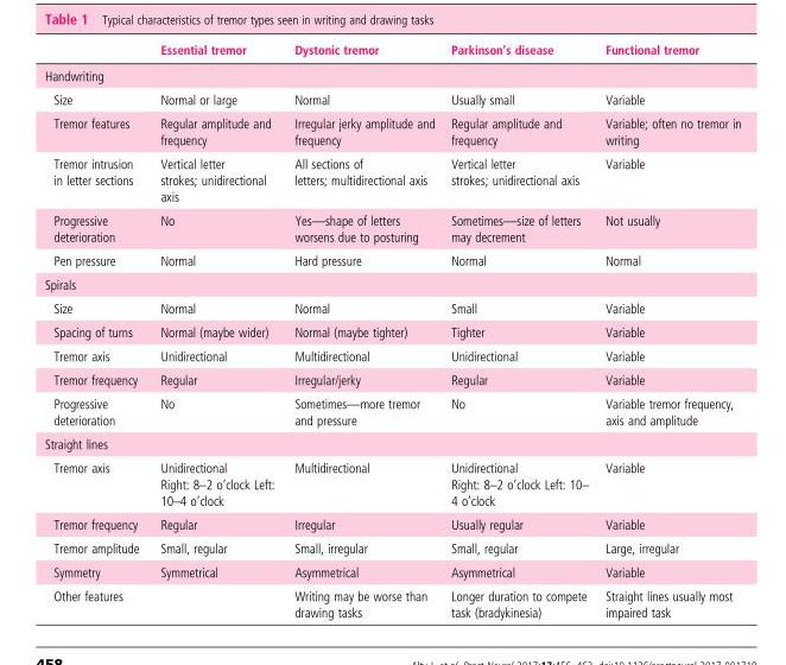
<table><thead><tr><td></td><td>Essential tremor</td><td>Dystonic tremor</td><td>Parkinson’s disease</td><td>Functional tremor</td></tr></thead><tbody><tr><td colspan="5">Handwriting</td></tr><tr><td>Size</td><td>Normal or large</td><td>Normal</td><td>Usually small</td><td>Variable</td></tr><tr><td>Tremor features</td><td>Regular amplitude and frequency</td><td>Irregular jerky amplitude and frequency</td><td>Regular amplitude and frequency</td><td>Variable; often no tremor in writing</td></tr><tr><td>Tremor intrusion in letter sections</td><td>Vertical letter strokes; unidirectional axis</td><td>All sections of letters; multidirectional axis</td><td>Vertical letter strokes; unidirectional axis</td><td>Variable</td></tr><tr><td>Progressive deterioration</td><td>No</td><td>Yes—shape of letters worsens due to posturing</td><td>Sometimes—size of letters may decrement</td><td>Not usually</td></tr><tr><td>Pen pressure</td><td>Normal</td><td>Hard pressure</td><td>Normal</td><td>Normal</td></tr><tr><td colspan="5">Spirals</td></tr><tr><td>Size</td><td>Normal</td><td>Normal</td><td>Small</td><td>Variable</td></tr><tr><td>Spacing of turns</td><td>Normal (maybe wider)</td><td>Normal (maybe tighter)</td><td>Tighter</td><td>Variable</td></tr><tr><td>Tremor axis</td><td>Unidirectional</td><td>Multidirectional</td><td>Unidirectional</td><td>Variable</td></tr><tr><td>Tremor frequency</td><td>Regular</td><td>Irregular/jerky</td><td>Regular</td><td>Variable</td></tr><tr><td>Progressive deterioration</td><td>No</td><td>Sometimes—more tremor and pressure</td><td>No</td><td>Variable tremor frequency, axis and amplitude</td></tr><tr><td colspan="5">Straight lines</td></tr><tr><td>Tremor axis</td><td>Unidirectional Right: 8–2 o’clock Left: 10–4 o’clock</td><td>Multidirectional</td><td>Unidirectional Right: 8–2 o’clock Left: 10– 4 o’clock</td><td>Variable</td></tr><tr><td>Tremor frequency</td><td>Regular</td><td>Irregular</td><td>Usually regular</td><td>Variable</td></tr><tr><td>Tremor amplitude</td><td>Small, regular</td><td>Small, irregular</td><td>Small, regular</td><td>Large, irregular</td></tr><tr><td>Symmetry</td><td>Symmetrical</td><td>Asymmetrical</td><td>Asymmetrical</td><td>Variable</td></tr><tr><td>Other features</td><td></td><td>Writing may be worse than drawing tasks</td><td>Longer duration to compete task (bradykinesia)</td><td>Straight lines usually most impaired task</td></tr></tbody></table>